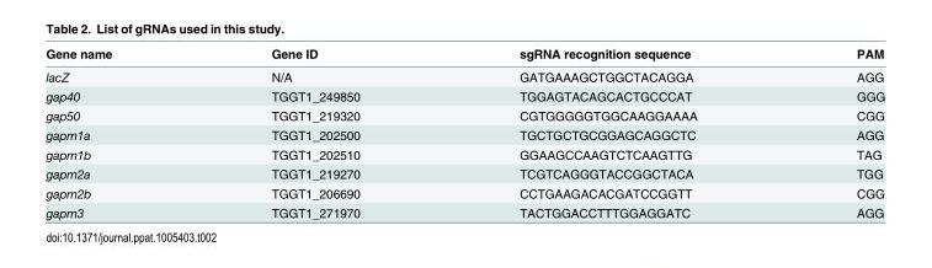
<table><thead><tr><td>Gene name</td><td>Gene ID</td><td>sgRNA recognition sequence</td><td>PAM</td></tr></thead><tbody><tr><td>lacZ</td><td>N/A</td><td>GATGAAAGCTGGCTACAGGA</td><td>AGG</td></tr><tr><td>gap40</td><td>TGGT1_249850</td><td>TGGAGTACAGCACTGCCCAT</td><td>GGG</td></tr><tr><td>gap50</td><td>TGGT1_219320</td><td>CGTGGGGGTGGCAAGGAAAA</td><td>CGG</td></tr><tr><td>gapm1a</td><td>TGGT1_202500</td><td>TGCTGCTGCGGAGCAGGCTC</td><td>AGG</td></tr><tr><td>gapm1b</td><td>TGGT1_202510</td><td>GGAAGCCAAGTCTCAAGTTG</td><td>TAG</td></tr><tr><td>gapm2a</td><td>TGGT1_219270</td><td>TCGTCAGGGTACCGGCTACA</td><td>TGG</td></tr><tr><td>gapm2b</td><td>TGGT1_206690</td><td>CCTGAAGACACGATCCGGTT</td><td>CGG</td></tr><tr><td>gapm3</td><td>TGGT1_271970</td><td>TACTGGACCTTTGGAGGATC</td><td>AGG</td></tr></tbody></table>